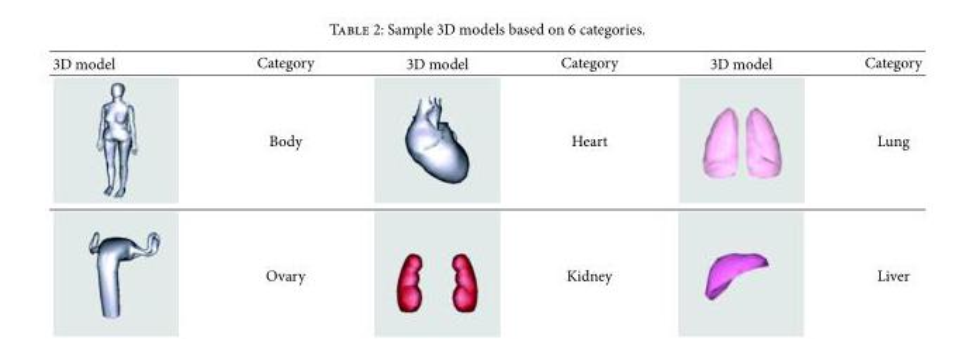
<table><thead><tr><td>3D model</td><td>Category</td><td>3D model</td><td>Category</td><td>3D model</td><td>Category</td></tr></thead><tbody><tr><td></td><td>Body</td><td></td><td>Heart</td><td></td><td>Lung</td></tr><tr><td></td><td>Ovary</td><td></td><td>Kidney</td><td></td><td>Liver</td></tr></tbody></table>